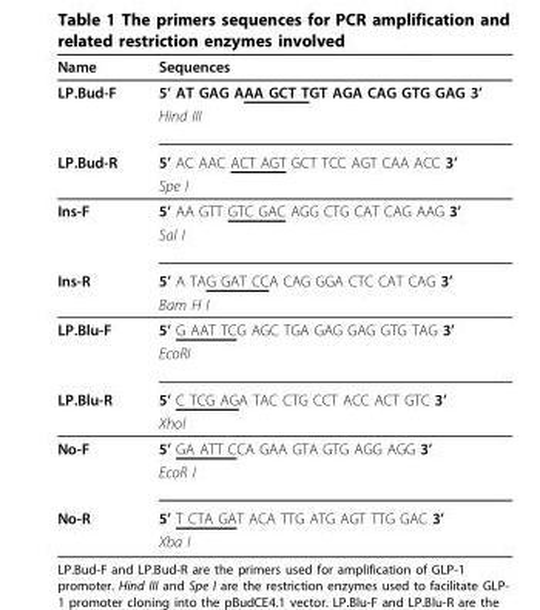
<table><thead><tr><td>Name</td><td>Sequences</td></tr></thead><tbody><tr><td rowspan="2">LP.Bud-F</td><td>5’ AT GAG AAA GCT TGT AGA CAG GTG GAG 3’</td></tr><tr><td>Hind III</td></tr><tr><td rowspan="2">LP.Bud-R</td><td>5’ AC AAC ACT AGT GCT TCC AGT CAA ACC 3’</td></tr><tr><td>Spe I</td></tr><tr><td rowspan="2">Ins-F</td><td>5’ AA GTT GTC GAC AGG CTG CAT CAG AAG 3’</td></tr><tr><td>Sal I</td></tr><tr><td rowspan="2">Ins-R</td><td>5’ A TAG GAT CCA CAG GGA CTC CAT CAG 3’</td></tr><tr><td>Bam H I</td></tr><tr><td rowspan="2">LP.Blu-F</td><td>5’ G AAT TCG AGC TGA GAG GAG GTG TAG 3’</td></tr><tr><td>EcoRI</td></tr><tr><td rowspan="2">LP.Blu-R</td><td>5’ C TCG AGA TAC CTG CCT ACC ACT GTC 3’</td></tr><tr><td>XhoI</td></tr><tr><td rowspan="2">No-F</td><td>5’ GA ATT CCA GAA GTA GTG AGG AGG 3’</td></tr><tr><td>EcoR I</td></tr><tr><td rowspan="2">No-R</td><td>5’ T CTA GAT ACA TTG ATG AGT TTG GAC 3’</td></tr><tr><td>Xba I</td></tr></tbody></table>